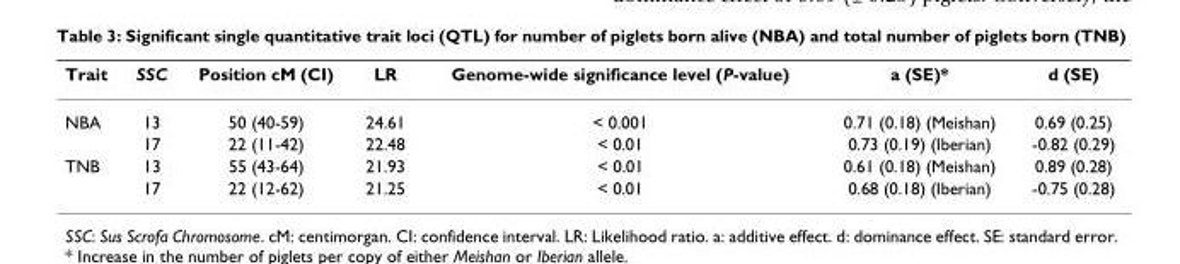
<table><thead><tr><td>Trait</td><td>SSC</td><td>Position cM (CI)</td><td>LR</td><td>Genome-wide significance level (P-value)</td><td>a (SE)*</td><td>d (SE)</td></tr></thead><tbody><tr><td rowspan="2">NBA</td><td>13</td><td>50 (40-59)</td><td>24.61</td><td>&lt; 0.001</td><td>0.71 (0.18) (Meishan)</td><td>0.69 (0.25)</td></tr><tr><td>17</td><td>22 (11-42)</td><td>22.48</td><td>&lt; 0.01</td><td>0.73 (0.19) (Iberian)</td><td>-0.82 (0.29)</td></tr><tr><td rowspan="2">TNB</td><td>13</td><td>55 (43-64)</td><td>21.93</td><td>&lt; 0.01</td><td>0.61 (0.18) (Meishan)</td><td>0.89 (0.28)</td></tr><tr><td>17</td><td>22 (12-62)</td><td>21.25</td><td>&lt; 0.01</td><td>0.68 (0.18) (Iberian)</td><td>-0.75 (0.28)</td></tr></tbody></table>